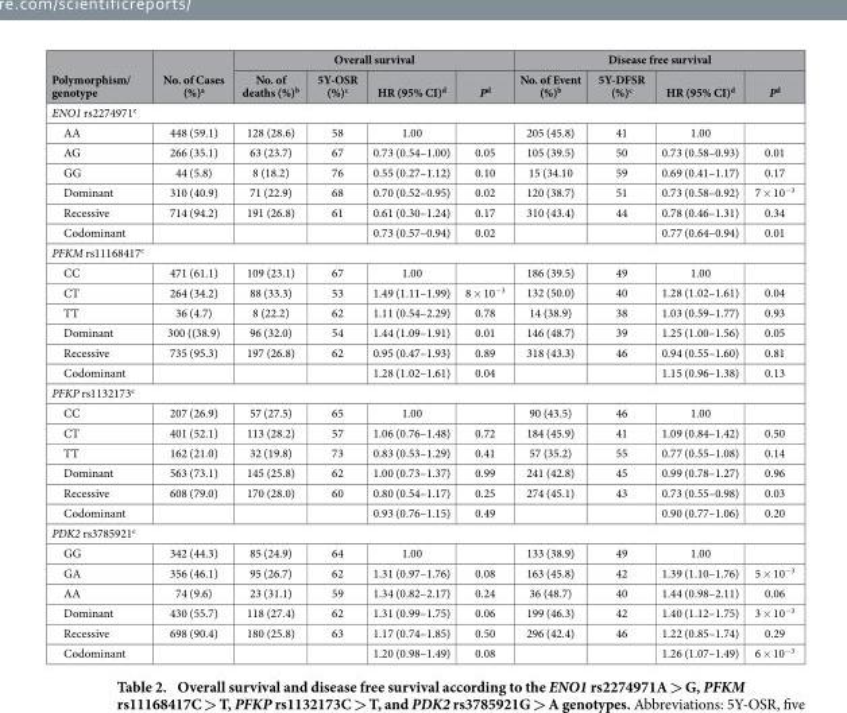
<table><thead><tr><td rowspan="2">Polymorphism/ genotype</td><td rowspan="2">No. of Cases (%)<sup>a</sup></td><td colspan="4">Overall survival</td><td colspan="4">Disease free survival</td></tr><tr><td>No. of deaths (%)<sup>b</sup></td><td>5Y-OSR (%)<sup>c</sup></td><td>HR (95% CI)<sup>d</sup></td><td>P<sup>d</sup></td><td>No. of Event (%)<sup>b</sup></td><td>5Y-DFSR (%)<sup>c</sup></td><td>HR (95% CI)<sup>d</sup></td><td>P<sup>d</sup></td></tr></thead><tbody><tr><td colspan="10">ENO1 rs2274971<sup>e</sup></td></tr><tr><td>AA</td><td>448 (59.1)</td><td>128 (28.6)</td><td>58</td><td>1.00</td><td></td><td>205 (45.8)</td><td>41</td><td>1.00</td><td></td></tr><tr><td>AG</td><td>266 (35.1)</td><td>63 (23.7)</td><td>67</td><td>0.73 (0.54–1.00)</td><td>0.05</td><td>105 (39.5)</td><td>50</td><td>0.73 (0.58–0.93)</td><td>0.01</td></tr><tr><td>GG</td><td>44 (5.8)</td><td>8 (18.2)</td><td>76</td><td>0.55 (0.27–1.12)</td><td>0.10</td><td>15 (34.10</td><td>59</td><td>0.69 (0.41–1.17)</td><td>0.17</td></tr><tr><td>Dominant</td><td>310 (40.9)</td><td>71 (22.9)</td><td>68</td><td>0.70 (0.52–0.95)</td><td>0.02</td><td>120 (38.7)</td><td>51</td><td>0.73 (0.58–0.92)</td><td>7 × 10<sup>−3</sup></td></tr><tr><td>Recessive</td><td>714 (94.2)</td><td>191 (26.8)</td><td>61</td><td>0.61 (0.30–1.24)</td><td>0.17</td><td>310 (43.4)</td><td>44</td><td>0.78 (0.46–1.31)</td><td>0.34</td></tr><tr><td>Codominant</td><td></td><td></td><td></td><td>0.73 (0.57–0.94)</td><td>0.02</td><td></td><td></td><td>0.77 (0.64–0.94)</td><td>0.01</td></tr><tr><td colspan="10">PFKM rs11168417<sup>e</sup></td></tr><tr><td>CC</td><td>471 (61.1)</td><td>109 (23.1)</td><td>67</td><td>1.00</td><td></td><td>186 (39.5)</td><td>49</td><td>1.00</td><td></td></tr><tr><td>CT</td><td>264 (34.2)</td><td>88 (33.3)</td><td>53</td><td>1.49 (1.11–1.99)</td><td>8 × 10<sup>−3</sup></td><td>132 (50.0)</td><td>40</td><td>1.28 (1.02–1.61)</td><td>0.04</td></tr><tr><td>TT</td><td>36 (4.7)</td><td>8 (22.2)</td><td>62</td><td>1.11 (0.54–2.29)</td><td>0.78</td><td>14 (38.9)</td><td>38</td><td>1.03 (0.59–1.77)</td><td>0.93</td></tr><tr><td>Dominant</td><td>300 ((38.9)</td><td>96 (32.0)</td><td>54</td><td>1.44 (1.09–1.91)</td><td>0.01</td><td>146 (48.7)</td><td>39</td><td>1.25 (1.00–1.56)</td><td>0.05</td></tr><tr><td>Recessive</td><td>735 (95.3)</td><td>197 (26.8)</td><td>62</td><td>0.95 (0.47–1.93)</td><td>0.89</td><td>318 (43.3)</td><td>46</td><td>0.94 (0.55–1.60)</td><td>0.81</td></tr><tr><td>Codominant</td><td></td><td></td><td></td><td>1.28 (1.02–1.61)</td><td>0.04</td><td></td><td></td><td>1.15 (0.96–1.38)</td><td>0.13</td></tr><tr><td colspan="10">PFKP rs1132173<sup>e</sup></td></tr><tr><td>CC</td><td>207 (26.9)</td><td>57 (27.5)</td><td>65</td><td>1.00</td><td></td><td>90 (43.5)</td><td>46</td><td>1.00</td><td></td></tr><tr><td>CT</td><td>401 (52.1)</td><td>113 (28.2)</td><td>57</td><td>1.06 (0.76–1.48)</td><td>0.72</td><td>184 (45.9)</td><td>41</td><td>1.09 (0.84–1.42)</td><td>0.50</td></tr><tr><td>TT</td><td>162 (21.0)</td><td>32 (19.8)</td><td>73</td><td>0.83 (0.53–1.29)</td><td>0.41</td><td>57 (35.2)</td><td>55</td><td>0.77 (0.55–1.08)</td><td>0.14</td></tr><tr><td>Dominant</td><td>563 (73.1)</td><td>145 (25.8)</td><td>62</td><td>1.00 (0.73–1.37)</td><td>0.99</td><td>241 (42.8)</td><td>45</td><td>0.99 (0.78–1.27)</td><td>0.96</td></tr><tr><td>Recessive</td><td>608 (79.0)</td><td>170 (28.0)</td><td>60</td><td>0.80 (0.54–1.17)</td><td>0.25</td><td>274 (45.1)</td><td>43</td><td>0.73 (0.55–0.98)</td><td>0.03</td></tr><tr><td>Codominant</td><td></td><td></td><td></td><td>0.93 (0.76–1.15)</td><td>0.49</td><td></td><td></td><td>0.90 (0.77–1.06)</td><td>0.20</td></tr><tr><td colspan="10">PDK2 rs3785921<sup>e</sup></td></tr><tr><td>GG</td><td>342 (44.3)</td><td>85 (24.9)</td><td>64</td><td>1.00</td><td></td><td>133 (38.9)</td><td>49</td><td>1.00</td><td></td></tr><tr><td>GA</td><td>356 (46.1)</td><td>95 (26.7)</td><td>62</td><td>1.31 (0.97–1.76)</td><td>0.08</td><td>163 (45.8)</td><td>42</td><td>1.39 (1.10–1.76)</td><td>5 × 10<sup>−3</sup></td></tr><tr><td>AA</td><td>74 (9.6)</td><td>23 (31.1)</td><td>59</td><td>1.34 (0.82–2.17)</td><td>0.24</td><td>36 (48.7)</td><td>40</td><td>1.44 (0.98–2.11)</td><td>0.06</td></tr><tr><td>Dominant</td><td>430 (55.7)</td><td>118 (27.4)</td><td>62</td><td>1.31 (0.99–1.75)</td><td>0.06</td><td>199 (46.3)</td><td>42</td><td>1.40 (1.12–1.75)</td><td>3 × 10<sup>−3</sup></td></tr><tr><td>Recessive</td><td>698 (90.4)</td><td>180 (25.8)</td><td>63</td><td>1.17 (0.74–1.85)</td><td>0.50</td><td>296 (42.4)</td><td>46</td><td>1.22 (0.85–1.74)</td><td>0.29</td></tr><tr><td>Codominant</td><td></td><td></td><td></td><td>1.20 (0.98–1.49)</td><td>0.08</td><td></td><td></td><td>1.26 (1.07–1.49)</td><td>6 × 10<sup>−</sup>3</td></tr></tbody></table>